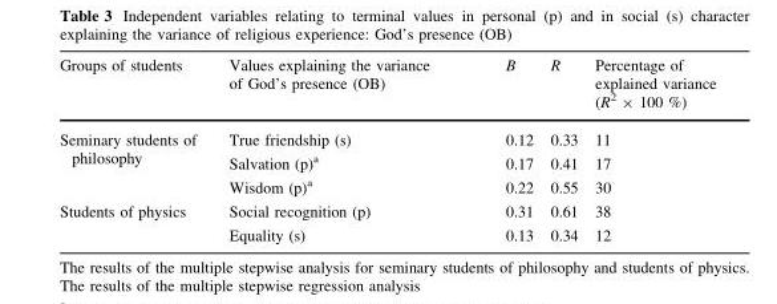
<table><thead><tr><td>Groups of students</td><td>Values explaining the variance of God’s presence (OB)</td><td>B</td><td>R</td><td>Percentage of explained variance (R<sup>2</sup> × 100 %)</td></tr></thead><tbody><tr><td rowspan="3">Seminary students of philosophy</td><td>True friendship (s)</td><td>0.12</td><td>0.33</td><td>11</td></tr><tr><td>Salvation (p)<sup>a</sup></td><td>0.17</td><td>0.41</td><td>17</td></tr><tr><td>Wisdom (p)<sup>a</sup></td><td>0.22</td><td>0.55</td><td>30</td></tr><tr><td rowspan="2">Students of physics</td><td>Social recognition (p)</td><td>0.31</td><td>0.61</td><td>38</td></tr><tr><td>Equality (s)</td><td>0.13</td><td>0.34</td><td>12</td></tr></tbody></table>